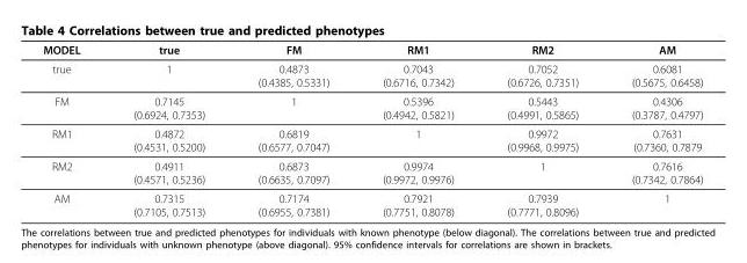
<table><thead><tr><td>MODEL</td><td>true</td><td>FM</td><td>RM1</td><td>RM2</td><td>AM</td></tr></thead><tbody><tr><td>true</td><td>1</td><td>0.4873 (0.4385, 0.5331)</td><td>0.7043 (0.6716, 0.7342)</td><td>0.7052 (0.6726, 0.7351)</td><td>0.6081 (0.5675, 0.6458)</td></tr><tr><td>FM</td><td>0.7145 (0.6924, 0.7353)</td><td>1</td><td>0.5396 (0.4942, 0.5821)</td><td>0.5443 (0.4991, 0.5865)</td><td>0.4306 (0.3787, 0.4797)</td></tr><tr><td>RM1</td><td>0.4872 (0.4531, 0.5200)</td><td>0.6819 (0.6577, 0.7047)</td><td>1</td><td>0.9972 (0.9968, 0.9975)</td><td>0.7631 (0.7360, 0.7879</td></tr><tr><td>RM2</td><td>0.4911 (0.4571, 0.5236)</td><td>0.6873 (0.6635, 0.7097)</td><td>0.9974 (0.9972, 0.9976)</td><td>1</td><td>0.7616 (0.7342, 0.7864)</td></tr><tr><td>AM</td><td>0.7315 (0.7105, 0.7513)</td><td>0.7174 (0.6955, 0.7381)</td><td>0.7921 (0.7751, 0.8078)</td><td>0.7939 (0.7771, 0.8096)</td><td>1</td></tr></tbody></table>